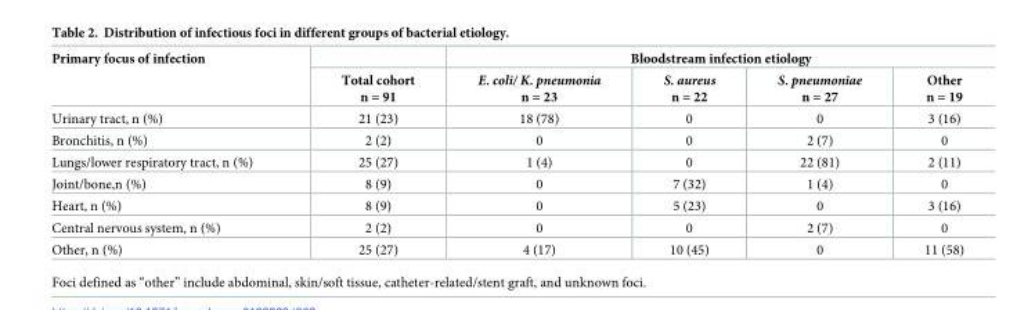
<table><thead><tr><td rowspan="2">Primary focus of infection</td><td rowspan="2">Total cohort n = 91</td><td colspan="4">Bloodstream infection etiology</td></tr><tr><td>E. coli/ K. pneumonia n = 23</td><td>S. aureus n = 22</td><td>S. pneumoniae n = 27</td><td>Other n = 19</td></tr></thead><tbody><tr><td>Urinary tract, n (%)</td><td>21 (23)</td><td>18 (78)</td><td>0</td><td>0</td><td>3 (16)</td></tr><tr><td>Bronchitis, n (%)</td><td>2 (2)</td><td>0</td><td>0</td><td>2 (7)</td><td>0</td></tr><tr><td>Lungs/lower respiratory tract, n (%)</td><td>25 (27)</td><td>1 (4)</td><td>0</td><td>22 (81)</td><td>2 (11)</td></tr><tr><td>Joint/bone,n (%)</td><td>8 (9)</td><td>0</td><td>7 (32)</td><td>1 (4)</td><td>0</td></tr><tr><td>Heart, n (%)</td><td>8 (9)</td><td>0</td><td>5 (23)</td><td>0</td><td>3 (16)</td></tr><tr><td>Central nervous system, n (%)</td><td>2 (2)</td><td>0</td><td>0</td><td>2 (7)</td><td>0</td></tr><tr><td>Other, n (%)</td><td>25 (27)</td><td>4 (17)</td><td>10 (45)</td><td>0</td><td>11 (58)</td></tr></tbody></table>